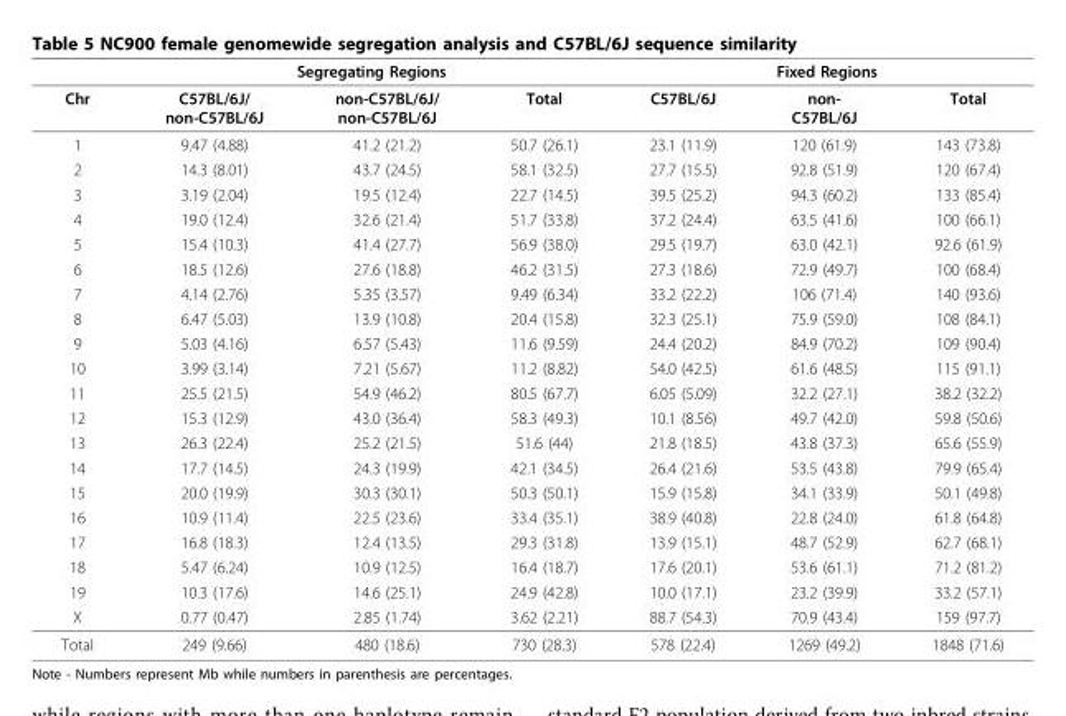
<table><thead><tr><td rowspan="2">Chr</td><td colspan="3">Segregating Regions</td><td colspan="3">Fixed Regions</td></tr><tr><td>C57BL/6J/ non-C57BL/6J</td><td>non-C57BL/6J/ non-C57BL/6J</td><td>Total</td><td>C57BL/6J</td><td>non- C57BL/6J</td><td>Total</td></tr></thead><tbody><tr><td>1</td><td>9.47 (4.88)</td><td>41.2 (21.2)</td><td>50.7 (26.1)</td><td>23.1 (11.9)</td><td>120 (61.9)</td><td>143 (73.8)</td></tr><tr><td>2</td><td>14.3 (8.01)</td><td>43.7 (24.5)</td><td>58.1 (32.5)</td><td>27.7 (15.5)</td><td>92.8 (51.9)</td><td>120 (67.4)</td></tr><tr><td>3</td><td>3.19 (2.04)</td><td>19.5 (12.4)</td><td>22.7 (14.5)</td><td>39.5 (25.2)</td><td>94.3 (60.2)</td><td>133 (85.4)</td></tr><tr><td>4</td><td>19.0 (12.4)</td><td>32.6 (21.4)</td><td>51.7 (33.8)</td><td>37.2 (24.4)</td><td>63.5 (41.6)</td><td>100 (66.1)</td></tr><tr><td>5</td><td>15.4 (10.3)</td><td>41.4 (27.7)</td><td>56.9 (38.0)</td><td>29.5 (19.7)</td><td>63.0 (42.1)</td><td>92.6 (61.9)</td></tr><tr><td>6</td><td>18.5 (12.6)</td><td>27.6 (18.8)</td><td>46.2 (31.5)</td><td>27.3 (18.6)</td><td>72.9 (49.7)</td><td>100 (68.4)</td></tr><tr><td>7</td><td>4.14 (2.76)</td><td>5.35 (3.57)</td><td>9.49 (6.34)</td><td>33.2 (22.2)</td><td>106 (71.4)</td><td>140 (93.6)</td></tr><tr><td>8</td><td>6.47 (5.03)</td><td>13.9 (10.8)</td><td>20.4 (15.8)</td><td>32.3 (25.1)</td><td>75.9 (59.0)</td><td>108 (84.1)</td></tr><tr><td>9</td><td>5.03 (4.16)</td><td>6.57 (5.43)</td><td>11.6 (9.59)</td><td>24.4 (20.2)</td><td>84.9 (70.2)</td><td>109 (90.4)</td></tr><tr><td>10</td><td>3.99 (3.14)</td><td>7.21 (5.67)</td><td>11.2 (8.82)</td><td>54.0 (42.5)</td><td>61.6 (48.5)</td><td>115 (91.1)</td></tr><tr><td>11</td><td>25.5 (21.5)</td><td>54.9 (46.2)</td><td>80.5 (67.7)</td><td>6.05 (5.09)</td><td>32.2 (27.1)</td><td>38.2 (32.2)</td></tr><tr><td>12</td><td>15.3 (12.9)</td><td>43.0 (36.4)</td><td>58.3 (49.3)</td><td>10.1 (8.56)</td><td>49.7 (42.0)</td><td>59.8 (50.6)</td></tr><tr><td>13</td><td>26.3 (22.4)</td><td>25.2 (21.5)</td><td>51.6 (44)</td><td>21.8 (18.5)</td><td>43.8 (37.3)</td><td>65.6 (55.9)</td></tr><tr><td>14</td><td>17.7 (14.5)</td><td>24.3 (19.9)</td><td>42.1 (34.5)</td><td>26.4 (21.6)</td><td>53.5 (43.8)</td><td>79.9 (65.4)</td></tr><tr><td>15</td><td>20.0 (19.9)</td><td>30.3 (30.1)</td><td>50.3 (50.1)</td><td>15.9 (15.8)</td><td>34.1 (33.9)</td><td>50.1 (49.8)</td></tr><tr><td>16</td><td>10.9 (11.4)</td><td>22.5 (23.6)</td><td>33.4 (35.1)</td><td>38.9 (40.8)</td><td>22.8 (24.0)</td><td>61.8 (64.8)</td></tr><tr><td>17</td><td>16.8 (18.3)</td><td>12.4 (13.5)</td><td>29.3 (31.8)</td><td>13.9 (15.1)</td><td>48.7 (52.9)</td><td>62.7 (68.1)</td></tr><tr><td>18</td><td>5.47 (6.24)</td><td>10.9 (12.5)</td><td>16.4 (18.7)</td><td>17.6 (20.1)</td><td>53.6 (61.1)</td><td>71.2 (81.2)</td></tr><tr><td>19</td><td>10.3 (17.6)</td><td>14.6 (25.1)</td><td>24.9 (42.8)</td><td>10.0 (17.1)</td><td>23.2 (39.9)</td><td>33.2 (57.1)</td></tr><tr><td>X</td><td>0.77 (0.47)</td><td>2.85 (1.74)</td><td>3.62 (2.21)</td><td>88.7 (54.3)</td><td>70.9 (43.4)</td><td>159 (97.7)</td></tr><tr><td>Total</td><td>249 (9.66)</td><td>480 (18.6)</td><td>730 (28.3)</td><td>578 (22.4)</td><td>1269 (49.2)</td><td>1848 (71.6)</td></tr></tbody></table>